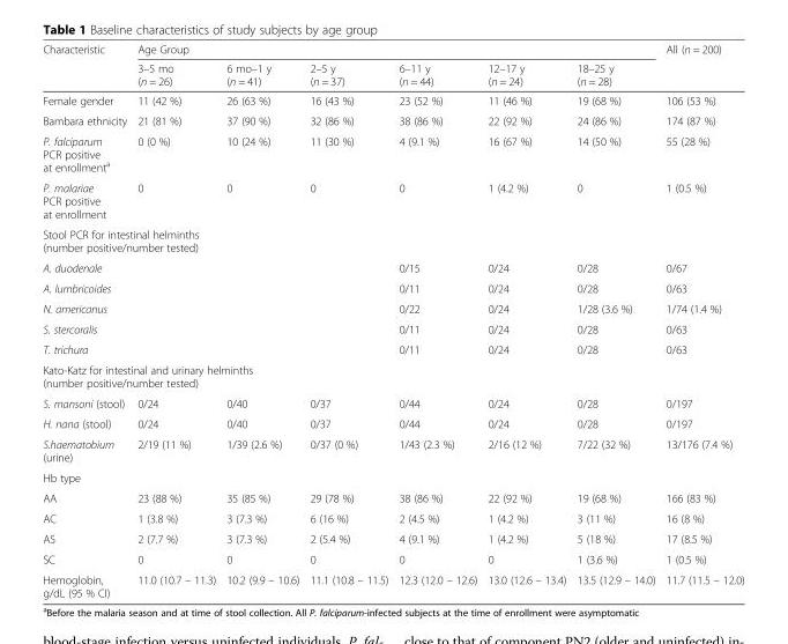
<table><thead><tr><td rowspan="2">Characteristic</td><td colspan="6">Age Group</td><td rowspan="2">All (n = 200)</td></tr><tr><td>3–5 mo (n = 26)</td><td>6 mo–1 y (n = 41)</td><td>2–5 y (n = 37)</td><td>6–11 y (n = 44)</td><td>12–17 y (n = 24)</td><td>18–25 y (n = 28)</td></tr></thead><tbody><tr><td>Female gender</td><td>11 (42 %)</td><td>26 (63 %)</td><td>16 (43 %)</td><td>23 (52 %)</td><td>11 (46 %)</td><td>19 (68 %)</td><td>106 (53 %)</td></tr><tr><td>Bambara ethnicity</td><td>21 (81 %)</td><td>37 (90 %)</td><td>32 (86 %)</td><td>38 (86 %)</td><td>22 (92 %)</td><td>24 (86 %)</td><td>174 (87 %)</td></tr><tr><td>P. falciparum PCR positive at enrollment<sup>a</sup></td><td>0 (0 %)</td><td>10 (24 %)</td><td>11 (30 %)</td><td>4 (9.1 %)</td><td>16 (67 %)</td><td>14 (50 %)</td><td>55 (28 %)</td></tr><tr><td>P. malariae PCR positive at enrollment</td><td>0</td><td>0</td><td>0</td><td>0</td><td>1 (4.2 %)</td><td>0</td><td>1 (0.5 %)</td></tr><tr><td colspan="8">Stool PCR for intestinal helminths (number positive/number tested)</td></tr><tr><td>A. duodenale</td><td></td><td></td><td></td><td>0/15</td><td>0/24</td><td>0/28</td><td>0/67</td></tr><tr><td>A. lumbricoides</td><td></td><td></td><td></td><td>0/11</td><td>0/24</td><td>0/28</td><td>0/63</td></tr><tr><td>N. americanus</td><td></td><td></td><td></td><td>0/22</td><td>0/24</td><td>1/28 (3.6 %)</td><td>1/74 (1.4 %)</td></tr><tr><td>S. stercoralis</td><td></td><td></td><td></td><td>0/11</td><td>0/24</td><td>0/28</td><td>0/63</td></tr><tr><td>T. trichura</td><td></td><td></td><td></td><td>0/11</td><td>0/24</td><td>0/28</td><td>0/63</td></tr><tr><td colspan="8">Kato-Katz for intestinal and urinary helminths (number positive/number tested)</td></tr><tr><td>S. mansoni (stool)</td><td>0/24</td><td>0/40</td><td>0/37</td><td>0/44</td><td>0/24</td><td>0/28</td><td>0/197</td></tr><tr><td>H. nana (stool)</td><td>0/24</td><td>0/40</td><td>0/37</td><td>0/44</td><td>0/24</td><td>0/28</td><td>0/197</td></tr><tr><td>S.haematobium (urine)</td><td>2/19 (11 %)</td><td>1/39 (2.6 %)</td><td>0/37 (0 %)</td><td>1/43 (2.3 %)</td><td>2/16 (12 %)</td><td>7/22 (32 %)</td><td>13/176 (7.4 %)</td></tr><tr><td colspan="8">Hb type</td></tr><tr><td>AA</td><td>23 (88 %)</td><td>35 (85 %)</td><td>29 (78 %)</td><td>38 (86 %)</td><td>22 (92 %)</td><td>19 (68 %)</td><td>166 (83 %)</td></tr><tr><td>AC</td><td>1 (3.8 %)</td><td>3 (7.3 %)</td><td>6 (16 %)</td><td>2 (4.5 %)</td><td>1 (4.2 %)</td><td>3 (11 %)</td><td>16 (8 %)</td></tr><tr><td>AS</td><td>2 (7.7 %)</td><td>3 (7.3 %)</td><td>2 (5.4 %)</td><td>4 (9.1 %)</td><td>1 (4.2 %)</td><td>5 (18 %)</td><td>17 (8.5 %)</td></tr><tr><td>SC</td><td>0</td><td>0</td><td>0</td><td>0</td><td>0</td><td>1 (3.6 %)</td><td>1 (0.5 %)</td></tr><tr><td>Hemoglobin, g/dL (95 % CI)</td><td>11.0 (10.7 – 11.3)</td><td>10.2 (9.9 – 10.6)</td><td>11.1 (10.8 – 11.5)</td><td>12.3 (12.0 – 12.6)</td><td>13.0 (12.6 – 13.4)</td><td>13.5 (12.9 – 14.0)</td><td>11.7 (11.5 – 12.0)</td></tr></tbody></table>